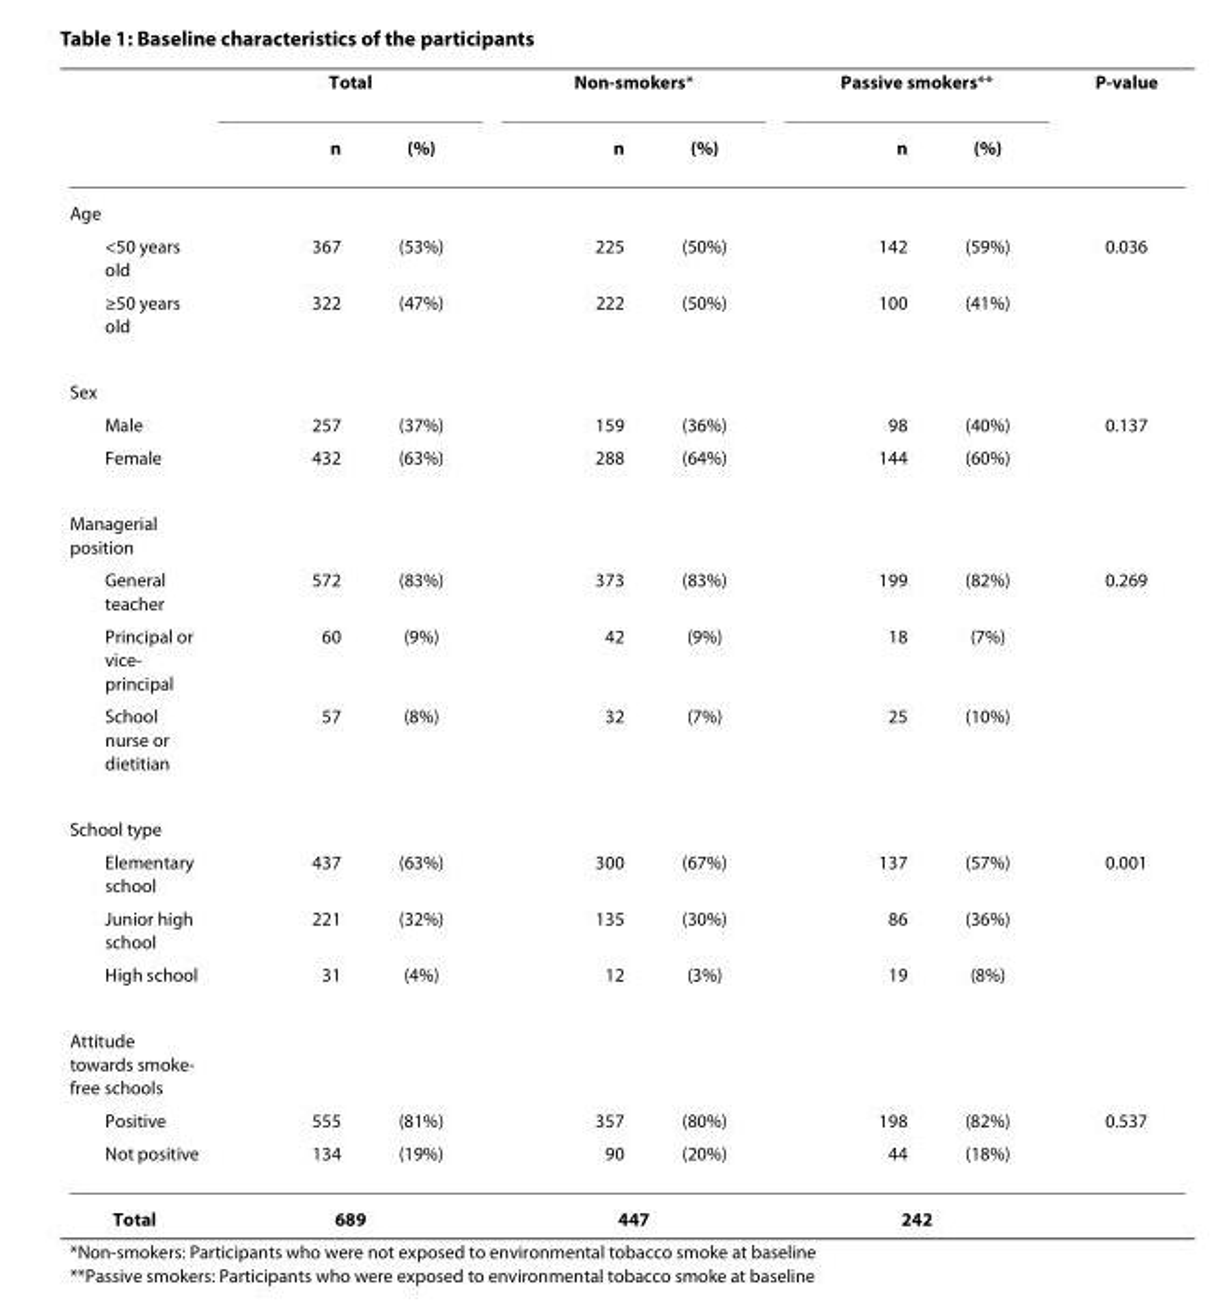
<table><thead><tr><td rowspan="2"></td><td colspan="2">Total</td><td colspan="2">Non-smokers*</td><td colspan="2">Passive smokers**</td><td rowspan="2">P-value</td></tr><tr><td>n</td><td>(%)</td><td>n</td><td>(%)</td><td>n</td><td>(%)</td></tr></thead><tbody><tr><td colspan="8">Age</td></tr><tr><td>&lt;50 years old</td><td>367</td><td>(53%)</td><td>225</td><td>(50%)</td><td>142</td><td>(59%)</td><td>0.036</td></tr><tr><td>≥50 years old</td><td>322</td><td>(47%)</td><td>222</td><td>(50%)</td><td>100</td><td>(41%)</td><td></td></tr><tr><td colspan="8">Sex</td></tr><tr><td>Male</td><td>257</td><td>(37%)</td><td>159</td><td>(36%)</td><td>98</td><td>(40%)</td><td>0.137</td></tr><tr><td>Female</td><td>432</td><td>(63%)</td><td>288</td><td>(64%)</td><td>144</td><td>(60%)</td><td></td></tr><tr><td colspan="8">Managerial position</td></tr><tr><td>General teacher</td><td>572</td><td>(83%)</td><td>373</td><td>(83%)</td><td>199</td><td>(82%)</td><td>0.269</td></tr><tr><td>Principal or vice- principal</td><td>60</td><td>(9%)</td><td>42</td><td>(9%)</td><td>18</td><td>(7%)</td><td></td></tr><tr><td>School nurse or dietitian</td><td>57</td><td>(8%)</td><td>32</td><td>(7%)</td><td>25</td><td>(10%)</td><td></td></tr><tr><td colspan="8">School type</td></tr><tr><td>Elementary school</td><td>437</td><td>(63%)</td><td>300</td><td>(67%)</td><td>137</td><td>(57%)</td><td>0.001</td></tr><tr><td>Junior high school</td><td>221</td><td>(32%)</td><td>135</td><td>(30%)</td><td>86</td><td>(36%)</td><td></td></tr><tr><td>High school</td><td>31</td><td>(4%)</td><td>12</td><td>(3%)</td><td>19</td><td>(8%)</td><td></td></tr><tr><td colspan="8">Attitude towards smoke- free schools</td></tr><tr><td>Positive</td><td>555</td><td>(81%)</td><td>357</td><td>(80%)</td><td>198</td><td>(82%)</td><td>0.537</td></tr><tr><td>Not positive</td><td>134</td><td>(19%)</td><td>90</td><td>(20%)</td><td>44</td><td>(18%)</td><td></td></tr><tr><td>Total</td><td colspan="2">689</td><td colspan="2">447</td><td colspan="2">242</td><td></td></tr></tbody></table>